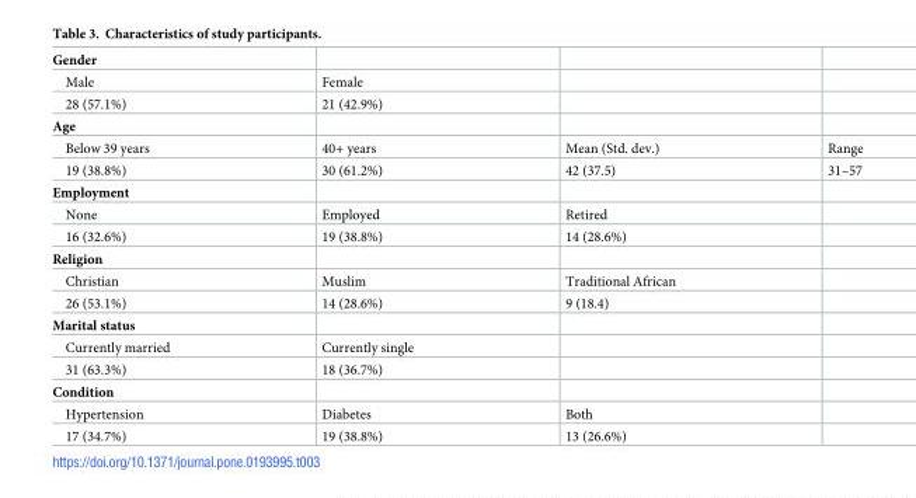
<table><tbody><tr><td colspan="4">Gender</td></tr><tr><td>Male</td><td>Female</td><td></td><td></td></tr><tr><td>28 (57.1%)</td><td>21 (42.9%)</td><td></td><td></td></tr><tr><td colspan="4">Age</td></tr><tr><td>Below 39 years</td><td>40+ years</td><td>Mean (Std. dev.)</td><td>Range</td></tr><tr><td>19 (38.8%)</td><td>30 (61.2%)</td><td>42 (37.5)</td><td>31–57</td></tr><tr><td colspan="4">Employment</td></tr><tr><td>None</td><td>Employed</td><td>Retired</td><td></td></tr><tr><td>16 (32.6%)</td><td>19 (38.8%)</td><td>14 (28.6%)</td><td></td></tr><tr><td colspan="4">Religion</td></tr><tr><td>Christian</td><td>Muslim</td><td>Traditional African</td><td></td></tr><tr><td>26 (53.1%)</td><td>14 (28.6%)</td><td>9 (18.4)</td><td></td></tr><tr><td colspan="4">Marital status</td></tr><tr><td>Currently married</td><td>Currently single</td><td></td><td></td></tr><tr><td>31 (63.3%)</td><td>18 (36.7%)</td><td></td><td></td></tr><tr><td colspan="4">Condition</td></tr><tr><td>Hypertension</td><td>Diabetes</td><td>Both</td><td></td></tr><tr><td>17 (34.7%)</td><td>19 (38.8%)</td><td>13 (26.6%)</td><td></td></tr></tbody></table>